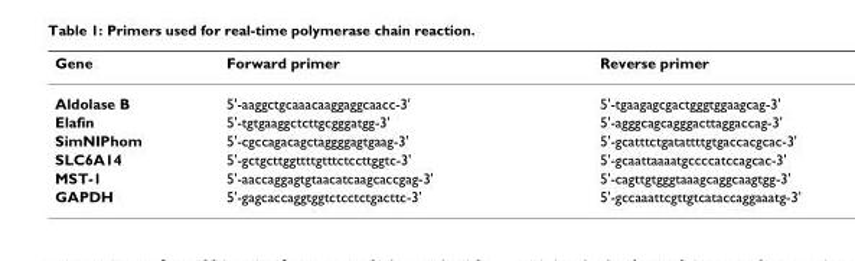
<table><thead><tr><td>Gene</td><td>Forward primer</td><td>Reverse primer</td></tr></thead><tbody><tr><td>Aldolase B</td><td>5&#x27;-aaggctgcaaacaaggaggcaacc-3&#x27;</td><td>5&#x27;-tgaagagcgactgggtggaagcag-3&#x27;</td></tr><tr><td>Elafin</td><td>5&#x27;-tgtgaaggctcttgcgggatgg-3&#x27;</td><td>5&#x27;-agggcagcagggacttaggaccag-3&#x27;</td></tr><tr><td>SimNIPhom</td><td>5&#x27;-cgccagacagctaggggagtgaag-3&#x27;</td><td>5&#x27;-gcatttctgatattttgtgaccacgcac-3&#x27;</td></tr><tr><td>SLC6A14</td><td>5&#x27;-gctgcttggttttgtttctccttggtc-3&#x27;</td><td>5&#x27;-gcaattaaaatgccccatccagcac-3&#x27;</td></tr><tr><td>MST-1</td><td>5&#x27;-aaccaggagtgtaacatcaagcaccgag-3&#x27;</td><td>5&#x27;-cagttgtgggtaaagcaggcaagtgg-3&#x27;</td></tr><tr><td>GAPDH</td><td>5&#x27;-gagcaccaggtggtctcctctgacttc-3&#x27;</td><td>5&#x27;-gccaaattcgttgtcataccaggaaatg-3&#x27;</td></tr></tbody></table>